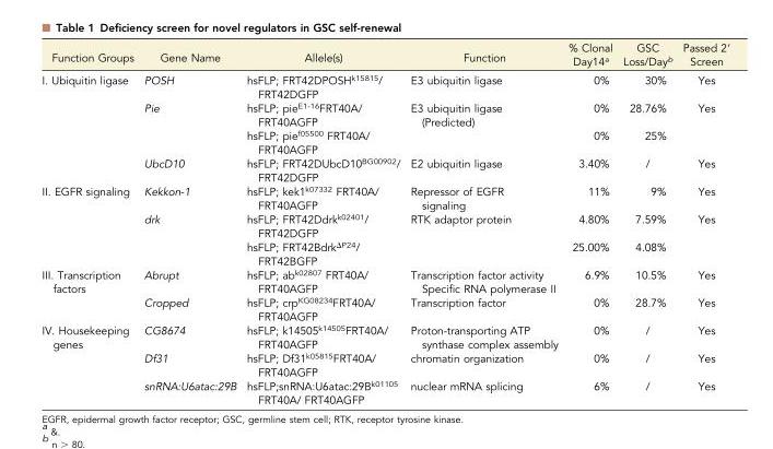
<table><thead><tr><td>Function Groups</td><td>Gene Name</td><td>Allele(s)</td><td>Function</td><td>% Clonal Day14<sup>a</sup></td><td>GSC Loss/Day<sup>b</sup></td><td>Passed 2′ Screen</td></tr></thead><tbody><tr><td rowspan="4">I. Ubiquitin ligase</td><td>POSH</td><td>hsFLP; FRT42DPOSH<sup>k15815</sup>/ FRT42DGFP</td><td>E3 ubiquitin ligase</td><td>0%</td><td>30%</td><td>Yes</td></tr><tr><td rowspan="2">Pie</td><td>hsFLP; pie<sup>E1-16</sup>FRT40A/ FRT40AGFP</td><td rowspan="2">E3 ubiquitin ligase (Predicted)</td><td>0%</td><td>28.76%</td><td rowspan="2">Yes</td></tr><tr><td>hsFLP; pie<sup>f05500</sup> FRT40A/ FRT40AGFP</td><td>0%</td><td>25%</td></tr><tr><td>UbcD10</td><td>hsFLP; FRT42DUbcD10<sup>BG00902</sup>/ FRT42DGFP</td><td>E2 ubiquitin ligase</td><td>3.40%</td><td>/</td><td>Yes</td></tr><tr><td rowspan="3">II. EGFR signaling</td><td>Kekkon-1</td><td>hsFLP; kek1<sup>k07332</sup> FRT40A/ FRT40AGFP</td><td>Repressor of EGFR signaling</td><td>11%</td><td>9%</td><td>Yes</td></tr><tr><td>drk</td><td>hsFLP; FRT42Ddrk<sup>k02401</sup>/ FRT42DGFP</td><td>RTK adaptor protein</td><td>4.80%</td><td>7.59%</td><td rowspan="2">Yes</td></tr><tr><td></td><td>hsFLP; FRT42Bdrk<sup>ΔP24</sup>/ FRT42BGFP</td><td></td><td>25.00%</td><td>4.08%</td></tr><tr><td rowspan="2">III. Transcription factors</td><td>Abrupt</td><td>hsFLP; ab<sup>k02807</sup> FRT40A/ FRT40AGFP</td><td>Transcription factor activity Specific RNA polymerase II</td><td>6.9%</td><td>10.5%</td><td>Yes</td></tr><tr><td>Cropped</td><td>hsFLP; crp<sup>KG08234</sup>FRT40A/ FRT40AGFP</td><td>Transcription factor</td><td>0%</td><td>28.7%</td><td>Yes</td></tr><tr><td rowspan="3">IV. Housekeeping genes</td><td>CG8674</td><td>hsFLP; k14505<sup>k14505</sup>FRT40A/ FRT40AGFP</td><td>Proton-transporting ATP synthase complex assembly</td><td>0%</td><td>/</td><td>Yes</td></tr><tr><td>Df31</td><td>hsFLP; Df31<sup>k05815</sup>FRT40A/ FRT40AGFP</td><td>chromatin organization</td><td>0%</td><td>/</td><td>Yes</td></tr><tr><td>snRNA:U6atac:29B</td><td>hsFLP;snRNA:U6atac:29B<sup>k01105</sup> FRT40A/ FRT40AGFP</td><td>nuclear mRNA splicing</td><td>6%</td><td>/</td><td>Yes</td></tr></tbody></table>